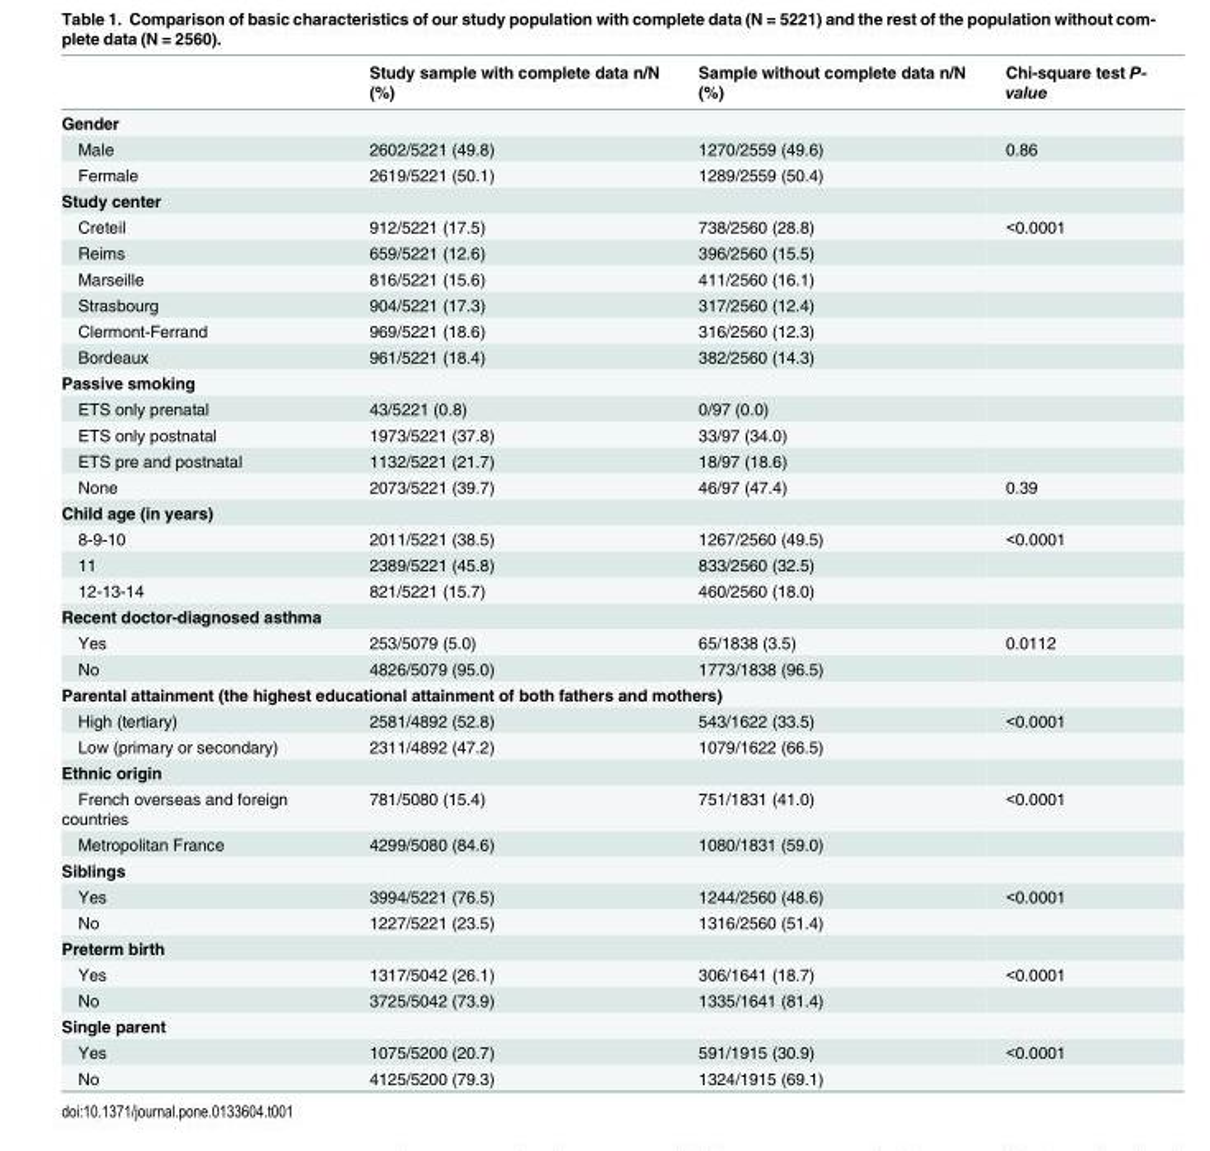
<table><thead><tr><td></td><td>Study sample with complete data n/N (%)</td><td>Sample without complete data n/N (%)</td><td>Chi-square test P- value</td></tr></thead><tbody><tr><td colspan="4">Gender</td></tr><tr><td>Male</td><td>2602/5221 (49.8)</td><td>1270/2559 (49.6)</td><td>0.86</td></tr><tr><td>Fermale</td><td>2619/5221 (50.1)</td><td>1289/2559 (50.4)</td><td></td></tr><tr><td colspan="4">Study center</td></tr><tr><td>Creteil</td><td>912/5221 (17.5)</td><td>738/2560 (28.8)</td><td>&lt;0.0001</td></tr><tr><td>Reims</td><td>659/5221 (12.6)</td><td>396/2560 (15.5)</td><td></td></tr><tr><td>Marseille</td><td>816/5221 (15.6)</td><td>411/2560 (16.1)</td><td></td></tr><tr><td>Strasbourg</td><td>904/5221 (17.3)</td><td>317/2560 (12.4)</td><td></td></tr><tr><td>Clermont-Ferrand</td><td>969/5221 (18.6)</td><td>316/2560 (12.3)</td><td></td></tr><tr><td>Bordeaux</td><td>961/5221 (18.4)</td><td>382/2560 (14.3)</td><td></td></tr><tr><td colspan="4">Passive smoking</td></tr><tr><td>ETS only prenatal</td><td>43/5221 (0.8)</td><td>0/97 (0.0)</td><td></td></tr><tr><td>ETS only postnatal</td><td>1973/5221 (37.8)</td><td>33/97 (34.0)</td><td></td></tr><tr><td>ETS pre and postnatal</td><td>1132/5221 (21.7)</td><td>18/97 (18.6)</td><td></td></tr><tr><td>None</td><td>2073/5221 (39.7)</td><td>46/97 (47.4)</td><td>0.39</td></tr><tr><td colspan="4">Child age (in years)</td></tr><tr><td>8-9-10</td><td>2011/5221 (38.5)</td><td>1267/2560 (49.5)</td><td>&lt;0.0001</td></tr><tr><td>11</td><td>2389/5221 (45.8)</td><td>833/2560 (32.5)</td><td></td></tr><tr><td>12-13-14</td><td>821/5221 (15.7)</td><td>460/2560 (18.0)</td><td></td></tr><tr><td colspan="4">Recent doctor-diagnosed asthma</td></tr><tr><td>Yes</td><td>253/5079 (5.0)</td><td>65/1838 (3.5)</td><td>0.0112</td></tr><tr><td>No</td><td>4826/5079 (95.0)</td><td>1773/1838 (96.5)</td><td></td></tr><tr><td colspan="4">Parental attainment (the highest educational attainment of both fathers and mothers)</td></tr><tr><td>High (tertiary)</td><td>2581/4892 (52.8)</td><td>543/1622 (33.5)</td><td>&lt;0.0001</td></tr><tr><td>Low (primary or secondary)</td><td>2311/4892 (47.2)</td><td>1079/1622 (66.5)</td><td></td></tr><tr><td colspan="4">Ethnic origin</td></tr><tr><td>French overseas and foreign countries</td><td>781/5080 (15.4)</td><td>751/1831 (41.0)</td><td>&lt;0.0001</td></tr><tr><td>Metropolitan France</td><td>4299/5080 (84.6)</td><td>1080/1831 (59.0)</td><td></td></tr><tr><td colspan="4">Siblings</td></tr><tr><td>Yes</td><td>3994/5221 (76.5)</td><td>1244/2560 (48.6)</td><td>&lt;0.0001</td></tr><tr><td>No</td><td>1227/5221 (23.5)</td><td>1316/2560 (51.4)</td><td></td></tr><tr><td colspan="4">Preterm birth</td></tr><tr><td>Yes</td><td>1317/5042 (26.1)</td><td>306/1641 (18.7)</td><td>&lt;0.0001</td></tr><tr><td>No</td><td>3725/5042 (73.9)</td><td>1335/1641 (81.4)</td><td></td></tr><tr><td colspan="4">Single parent</td></tr><tr><td>Yes</td><td>1075/5200 (20.7)</td><td>591/1915 (30.9)</td><td>&lt;0.0001</td></tr><tr><td>No</td><td>4125/5200 (79.3)</td><td>1324/1915 (69.1)</td><td></td></tr></tbody></table>